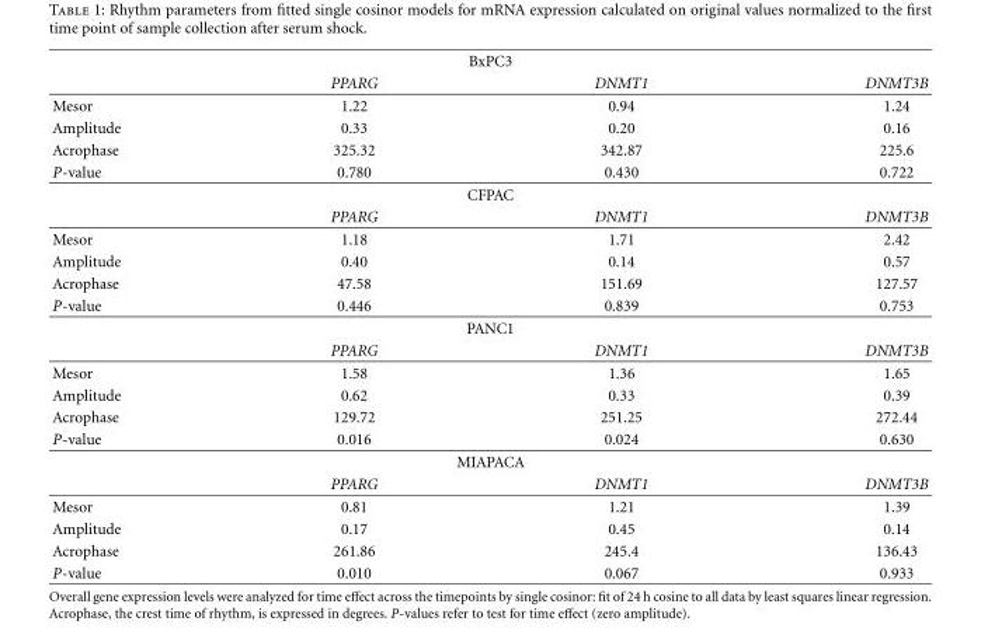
<table><thead><tr><td colspan="4">BxPC3</td></tr><tr><td></td><td>PPARG</td><td>DNMT1</td><td>DNMT3B</td></tr></thead><tbody><tr><td>Mesor</td><td>1.22</td><td>0.94</td><td>1.24</td></tr><tr><td>Amplitude</td><td>0.33</td><td>0.20</td><td>0.16</td></tr><tr><td>Acrophase</td><td>325.32</td><td>342.87</td><td>225.6</td></tr><tr><td>P-value</td><td>0.780</td><td>0.430</td><td>0.722</td></tr><tr><td colspan="4">CFPAC</td></tr><tr><td></td><td>PPARG</td><td>DNMT1</td><td>DNMT3B</td></tr><tr><td>Mesor</td><td>1.18</td><td>1.71</td><td>2.42</td></tr><tr><td>Amplitude</td><td>0.40</td><td>0.14</td><td>0.57</td></tr><tr><td>Acrophase</td><td>47.58</td><td>151.69</td><td>127.57</td></tr><tr><td>P-value</td><td>0.446</td><td>0.839</td><td>0.753</td></tr><tr><td colspan="4">PANC1</td></tr><tr><td></td><td>PPARG</td><td>DNMT1</td><td>DNMT3B</td></tr><tr><td>Mesor</td><td>1.58</td><td>1.36</td><td>1.65</td></tr><tr><td>Amplitude</td><td>0.62</td><td>0.33</td><td>0.39</td></tr><tr><td>Acrophase</td><td>129.72</td><td>251.25</td><td>272.44</td></tr><tr><td>P-value</td><td>0.016</td><td>0.024</td><td>0.630</td></tr><tr><td colspan="4">MIAPACA</td></tr><tr><td></td><td>PPARG</td><td>DNMT1</td><td>DNMT3B</td></tr><tr><td>Mesor</td><td>0.81</td><td>1.21</td><td>1.39</td></tr><tr><td>Amplitude</td><td>0.17</td><td>0.45</td><td>0.14</td></tr><tr><td>Acrophase</td><td>261.86</td><td>245.4</td><td>136.43</td></tr><tr><td>P-value</td><td>0.010</td><td>0.067</td><td>0.933</td></tr></tbody></table>